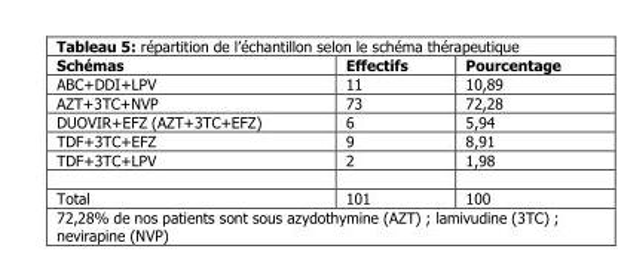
<table><thead><tr><td>Schémas</td><td>Effectifs</td><td>Pourcentage</td></tr></thead><tbody><tr><td>ABC+DDI+LPV</td><td>11</td><td>10,89</td></tr><tr><td>AZT+3TC+NVP</td><td>73</td><td>72,28</td></tr><tr><td>DUOVIR+EFZ (AZT+3TC+EFZ)</td><td>6</td><td>5,94</td></tr><tr><td>TDF+3TC+EFZ</td><td>9</td><td>8,91</td></tr><tr><td>TDF+3TC+LPV</td><td>2</td><td>1,98</td></tr><tr><td>Total</td><td>101</td><td>100</td></tr></tbody></table>